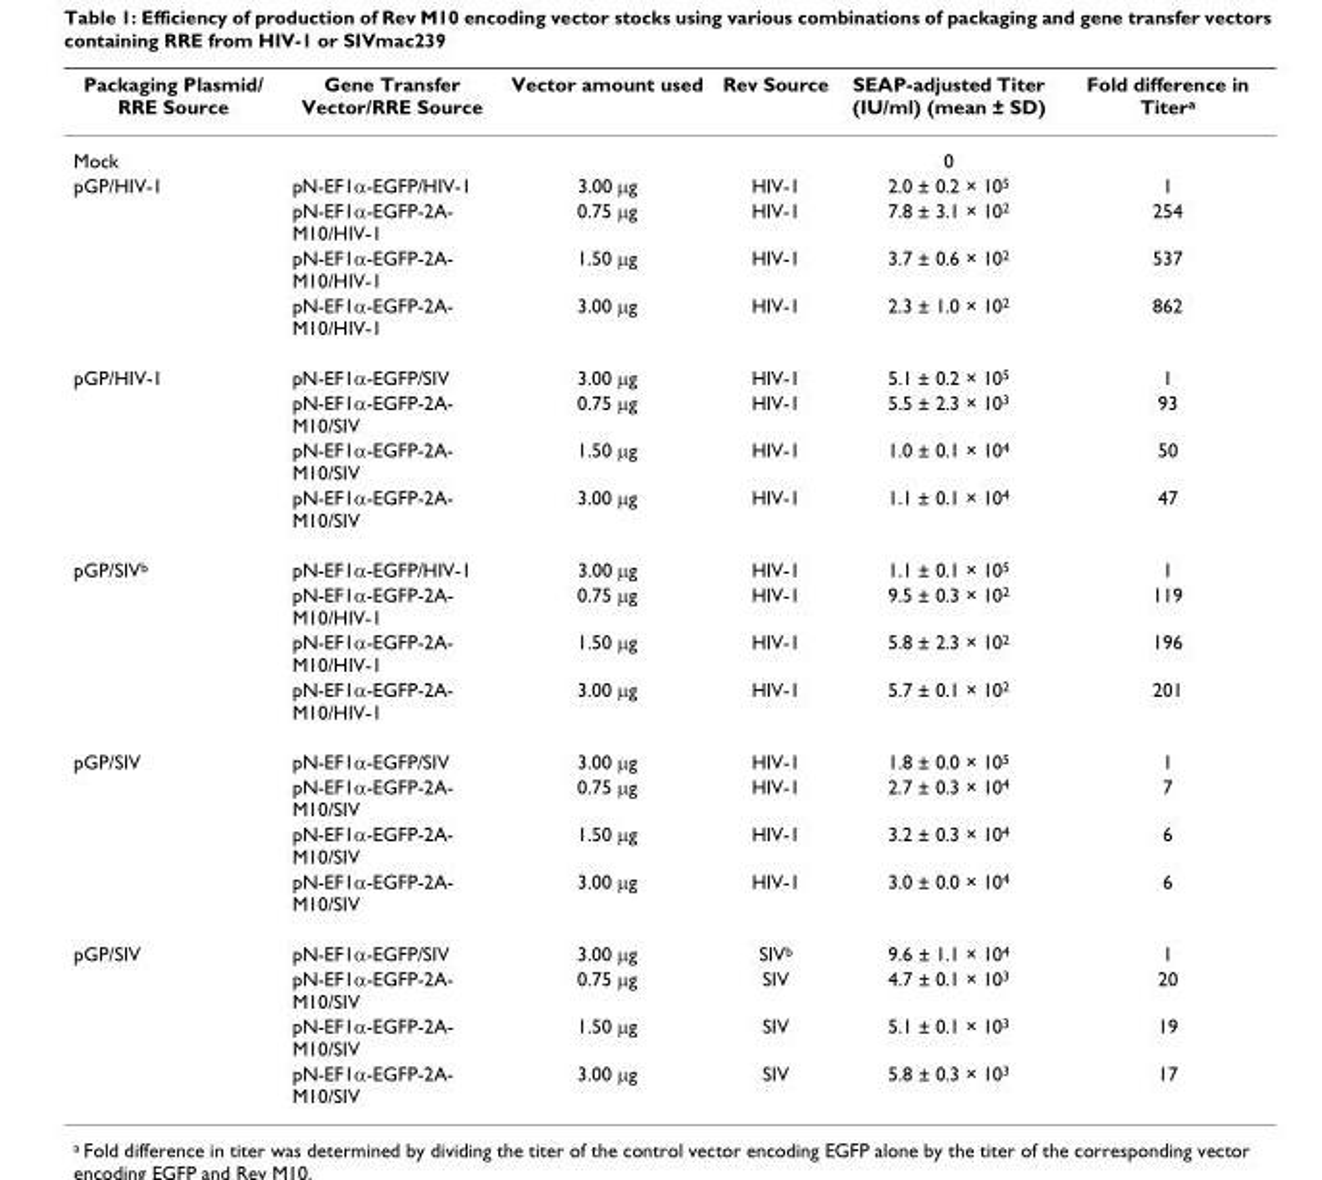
<table><thead><tr><td>Packaging Plasmid/ RRE Source</td><td>Gene Transfer Vector/RRE Source</td><td>Vector amount used</td><td>Rev Source</td><td>SEAP-adjusted Titer (IU/ml) (mean ± SD)</td><td>Fold difference in Titer<sup>a</sup></td></tr></thead><tbody><tr><td>Mock</td><td></td><td></td><td></td><td>0</td><td></td></tr><tr><td rowspan="4">pGP/HIV-1</td><td>pN-EF1α-EGFP/HIV-1</td><td>3.00 μg</td><td>HIV-1</td><td>2.0 ± 0.2 × 10<sup>5</sup></td><td>1</td></tr><tr><td>pN-EF1α-EGFP-2A- M10/HIV-1</td><td>0.75 μg</td><td>HIV-1</td><td>7.8 ± 3.1 × 10<sup>2</sup></td><td>254</td></tr><tr><td>pN-EF1α-EGFP-2A- M10/HIV-1</td><td>1.50 μg</td><td>HIV-1</td><td>3.7 ± 0.6 × 10<sup>2</sup></td><td>537</td></tr><tr><td>pN-EF1α-EGFP-2A- M10/HIV-1</td><td>3.00 μg</td><td>HIV-1</td><td>2.3 ± 1.0 × 10<sup>2</sup></td><td>862</td></tr><tr><td rowspan="4">pGP/HIV-1</td><td>pN-EF1α-EGFP/SIV</td><td>3.00 μg</td><td>HIV-1</td><td>5.1 ± 0.2 × 10<sup>5</sup></td><td>1</td></tr><tr><td>pN-EF1α-EGFP-2A- M10/SIV</td><td>0.75 μg</td><td>HIV-1</td><td>5.5 ± 2.3 × 10<sup>3</sup></td><td>93</td></tr><tr><td>pN-EF1α-EGFP-2A- M10/SIV</td><td>1.50 μg</td><td>HIV-1</td><td>1.0 ± 0.1 × 10<sup>4</sup></td><td>50</td></tr><tr><td>pN-EF1α-EGFP-2A- M10/SIV</td><td>3.00 μg</td><td>HIV-1</td><td>1.1 ± 0.1 × 10<sup>4</sup></td><td>47</td></tr><tr><td rowspan="4">pGP/SIV<sup>b</sup></td><td>pN-EF1α-EGFP/HIV-1</td><td>3.00 μg</td><td>HIV-1</td><td>1.1 ± 0.1 × 10<sup>5</sup></td><td>1</td></tr><tr><td>pN-EF1α-EGFP-2A- M10/HIV-1</td><td>0.75 μg</td><td>HIV-1</td><td>9.5 ± 0.3 × 10<sup>2</sup></td><td>119</td></tr><tr><td>pN-EF1α-EGFP-2A- M10/HIV-1</td><td>1.50 μg</td><td>HIV-1</td><td>5.8 ± 2.3 × 10<sup>2</sup></td><td>196</td></tr><tr><td>pN-EF1α-EGFP-2A- M10/HIV-1</td><td>3.00 μg</td><td>HIV-1</td><td>5.7 ± 0.1 × 10<sup>2</sup></td><td>201</td></tr><tr><td rowspan="4">pGP/SIV</td><td>pN-EF1α-EGFP/SIV</td><td>3.00 μg</td><td>HIV-1</td><td>1.8 ± 0.0 × 10<sup>5</sup></td><td>1</td></tr><tr><td>pN-EF1α-EGFP-2A- M10/SIV</td><td>0.75 μg</td><td>HIV-1</td><td>2.7 ± 0.3 × 10<sup>4</sup></td><td>7</td></tr><tr><td>pN-EF1α-EGFP-2A- M10/SIV</td><td>1.50 μg</td><td>HIV-1</td><td>3.2 ± 0.3 × 10<sup>4</sup></td><td>6</td></tr><tr><td>pN-EF1α-EGFP-2A- M10/SIV</td><td>3.00 μg</td><td>HIV-1</td><td>3.0 ± 0.0 × 10<sup>4</sup></td><td>6</td></tr><tr><td rowspan="4">pGP/SIV</td><td>pN-EF1α-EGFP/SIV</td><td>3.00 μg</td><td>SIV<sup>b</sup></td><td>9.6 ± 1.1 × 10<sup>4</sup></td><td>1</td></tr><tr><td>pN-EF1α-EGFP-2A- M10/SIV</td><td>0.75 μg</td><td>SIV</td><td>4.7 ± 0.1 × 10<sup>3</sup></td><td>20</td></tr><tr><td>pN-EF1α-EGFP-2A- M10/SIV</td><td>1.50 μg</td><td>SIV</td><td>5.1 ± 0.1 × 10<sup>3</sup></td><td>19</td></tr><tr><td>pN-EF1α-EGFP-2A- M10/SIV</td><td>3.00 μg</td><td>SIV</td><td>5.8 ± 0.3 × 10<sup>3</sup></td><td>17</td></tr></tbody></table>